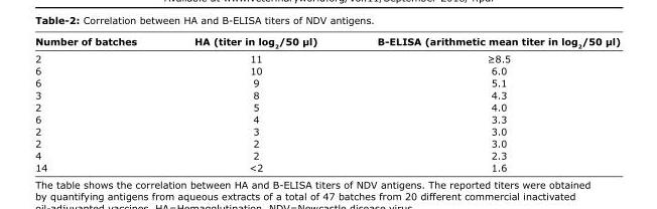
<table><thead><tr><td>Number of batches</td><td>HA (titer in log<sub>2</sub>/50 μl)</td><td>B‑ELISA (arithmetic mean titer in log<sub>2</sub>/50 μl)</td></tr></thead><tbody><tr><td>2</td><td>11</td><td>≥8.5</td></tr><tr><td>6</td><td>10</td><td>6.0</td></tr><tr><td>6</td><td>9</td><td>5.1</td></tr><tr><td>3</td><td>8</td><td>4.3</td></tr><tr><td>2</td><td>5</td><td>4.0</td></tr><tr><td>6</td><td>4</td><td>3.3</td></tr><tr><td>2</td><td>3</td><td>3.0</td></tr><tr><td>2</td><td>2</td><td>3.0</td></tr><tr><td>4</td><td>2</td><td>2.3</td></tr><tr><td>14</td><td>&lt;2</td><td>1.6</td></tr></tbody></table>